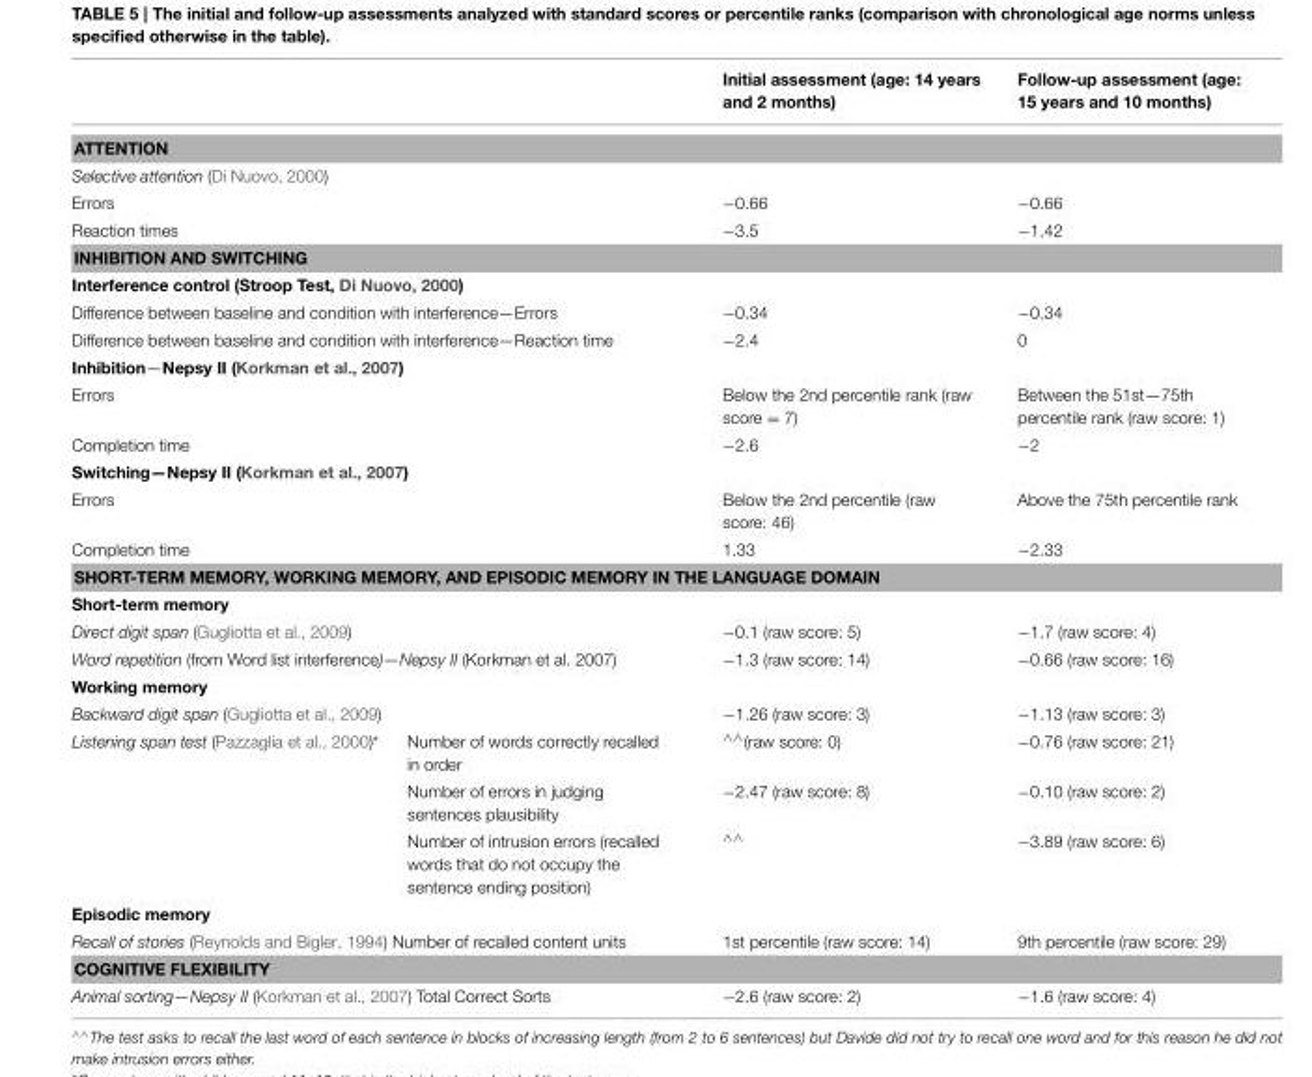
<table><thead><tr><td></td><td></td><td>Initial assessment (age: 14 years and 2 months)</td><td>Follow-up assessment (age: 15 years and 10 months)</td></tr></thead><tbody><tr><td colspan="4">ATTENTION</td></tr><tr><td colspan="4">Selective attention (Di Nuovo, 2000)</td></tr><tr><td colspan="2">Errors</td><td>−0.66</td><td>−0.66</td></tr><tr><td colspan="2">Reaction times</td><td>−3.5</td><td>−1.42</td></tr><tr><td colspan="4">INHIBITION AND SWITCHING</td></tr><tr><td colspan="4">Interference control (Stroop Test, Di Nuovo, 2000)</td></tr><tr><td colspan="2">Difference between baseline and condition with interference—Errors</td><td>−0.34</td><td>−0.34</td></tr><tr><td colspan="2">Difference between baseline and condition with interference—Reaction time</td><td>−2.4</td><td>0</td></tr><tr><td colspan="4">Inhibition—Nepsy II (Korkman et al., 2007)</td></tr><tr><td colspan="2">Errors</td><td>Below the 2nd percentile rank (raw score = 7)</td><td>Between the 51st—75th percentile rank (raw score: 1)</td></tr><tr><td colspan="2">Completion time</td><td>−2.6</td><td>−2</td></tr><tr><td colspan="4">Switching—Nepsy II (Korkman et al., 2007)</td></tr><tr><td colspan="2">Errors</td><td>Below the 2nd percentile (raw score: 46)</td><td>Above the 75th percentile rank</td></tr><tr><td colspan="2">Completion time</td><td>1.33</td><td>−2.33</td></tr><tr><td colspan="4">SHORT-TERM MEMORY, WORKING MEMORY, AND EPISODIC MEMORY IN THE LANGUAGE DOMAIN</td></tr><tr><td colspan="4">Short-term memory</td></tr><tr><td colspan="2">Direct digit span (Gugliotta et al., 2009)</td><td>−0.1 (raw score: 5)</td><td>−1.7 (raw score: 4)</td></tr><tr><td colspan="2">Word repetition (from Word list interference)—Nepsy II (Korkman et al. 2007)</td><td>−1.3 (raw score: 14)</td><td>−0.66 (raw score: 16)</td></tr><tr><td colspan="4">Working memory</td></tr><tr><td colspan="2">Backward digit span (Gugliotta et al., 2009)</td><td>−1.26 (raw score: 3)</td><td>−1.13 (raw score: 3)</td></tr><tr><td rowspan="3">Listening span test (Pazzaglia et al., 2000)*</td><td>Number of words correctly recalled in order</td><td><sup>∧∧</sup>(raw score: 0)</td><td>−0.76 (raw score: 21)</td></tr><tr><td>Number of errors in judging sentences plausibility</td><td>−2.47 (raw score: 8)</td><td>−0.10 (raw score: 2)</td></tr><tr><td>Number of intrusion errors (recalled words that do not occupy the sentence ending position)</td><td><sup>∧∧</sup></td><td>−3.89 (raw score: 6)</td></tr><tr><td colspan="4">Episodic memory</td></tr><tr><td colspan="2">Recall of stories (Reynolds and Bigler, 1994) Number of recalled content units</td><td>1st percentile (raw score: 14)</td><td>9th percentile (raw score: 29)</td></tr><tr><td colspan="4">COGNITIVE FLEXIBILITY</td></tr><tr><td colspan="2">Animal sorting—Nepsy II (Korkman et al., 2007) Total Correct Sorts</td><td>−2.6 (raw score: 2)</td><td>−1.6 (raw score: 4)</td></tr></tbody></table>